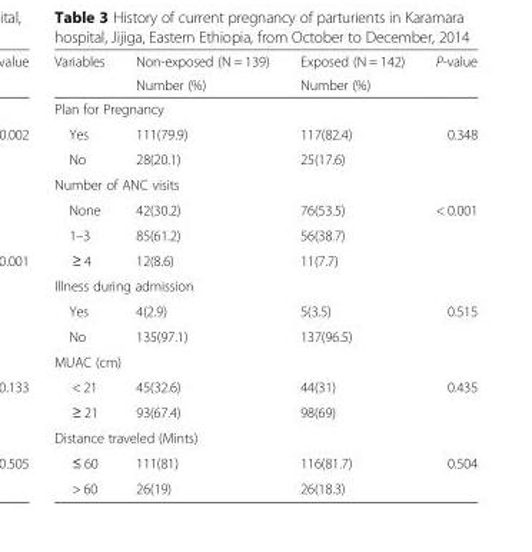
<table><thead><tr><td rowspan="2">Variables</td><td rowspan="2">Non-exposed (N = 139) Number (%)</td><td rowspan="2">Exposed (N = 142) Number (%)</td><td rowspan="2">P-value</td></tr><tr></tr></thead><tbody><tr><td colspan="4">Plan for Pregnancy</td></tr><tr><td>Yes</td><td>111(79.9)</td><td>117(82.4)</td><td rowspan="2">0.348</td></tr><tr><td>No</td><td>28(20.1)</td><td>25(17.6)</td></tr><tr><td colspan="4">Number of ANC visits</td></tr><tr><td>None</td><td>42(30.2)</td><td>76(53.5)</td><td rowspan="3">&lt; 0.001</td></tr><tr><td>1–3</td><td>85(61.2)</td><td>56(38.7)</td></tr><tr><td>≥ 4</td><td>12(8.6)</td><td>11(7.7)</td></tr><tr><td colspan="4">Illness during admission</td></tr><tr><td>Yes</td><td>4(2.9)</td><td>5(3.5)</td><td rowspan="2">0.515</td></tr><tr><td>No</td><td>135(97.1)</td><td>137(96.5)</td></tr><tr><td colspan="4">MUAC (cm)</td></tr><tr><td>&lt; 21</td><td>45(32.6)</td><td>44(31)</td><td rowspan="2">0.435</td></tr><tr><td>≥ 21</td><td>93(67.4)</td><td>98(69)</td></tr><tr><td colspan="4">Distance traveled (Mints)</td></tr><tr><td>≤ 60</td><td>111(81)</td><td>116(81.7)</td><td rowspan="2">0.504</td></tr><tr><td>&gt; 60</td><td>26(19)</td><td>26(18.3)</td></tr></tbody></table>